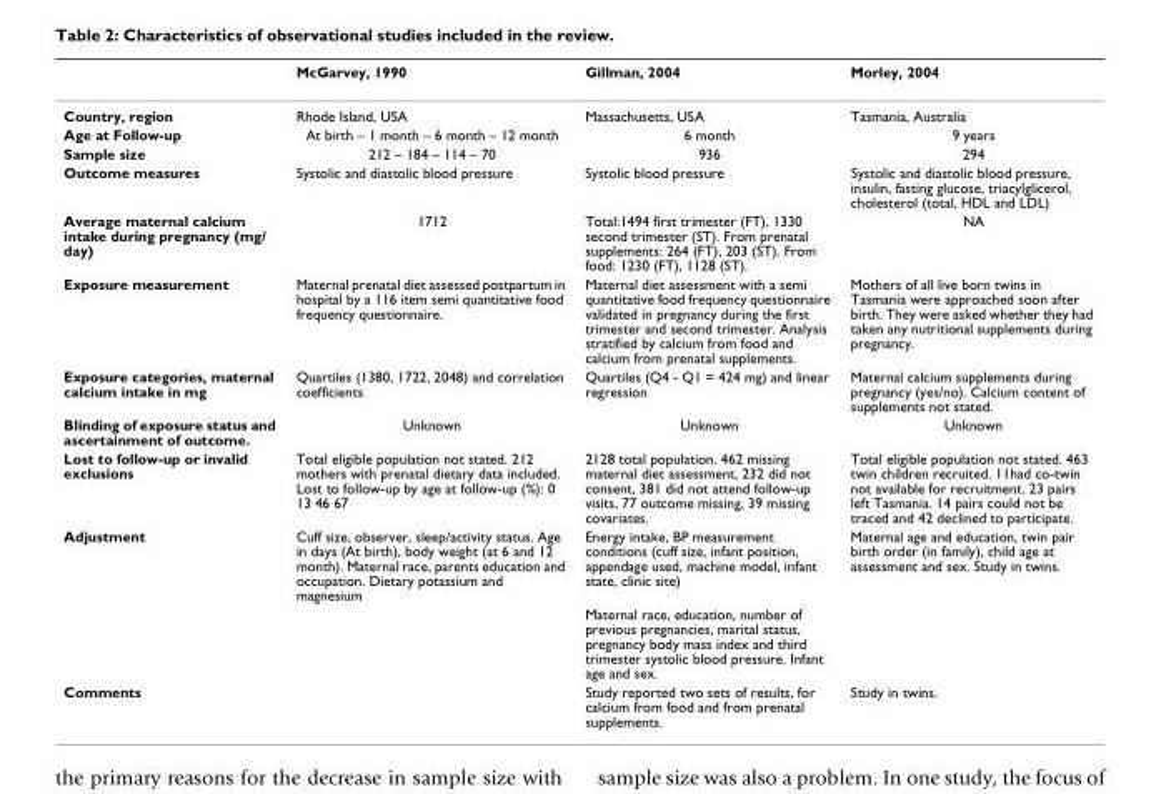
<table><thead><tr><td></td><td>McGarvey, 1990</td><td>Gillman, 2004</td><td>Morley, 2004</td></tr></thead><tbody><tr><td>Country, region</td><td>Rhode Island, USA</td><td>Massachusetts, USA</td><td>Tasmania, Australia</td></tr><tr><td>Age at Follow-up</td><td>At birth – 1 month – 6 month – 12 month</td><td>6 month</td><td>9 years</td></tr><tr><td>Sample size</td><td>212 – 184 – 114 – 70</td><td>936</td><td>294</td></tr><tr><td>Outcome measures</td><td>Systolic and diastolic blood pressure</td><td>Systolic blood pressure</td><td>Systolic and diastolic blood pressure, insulin, fasting glucose, triacylglicerol, cholesterol (total, HDL and LDL)</td></tr><tr><td>Average maternal calcium intake during pregnancy (mg/ day)</td><td>1712</td><td>Total:1494 first trimester (FT), 1330 second trimester (ST). From prenatal supplements: 264 (FT), 203 (ST). From food: 1230 (FT), 1128 (ST).</td><td>NA</td></tr><tr><td>Exposure measurement</td><td>Maternal prenatal diet assessed postpartum in hospital by a 116 item semi quantitative food frequency questionnaire.</td><td>Maternal diet assessment with a semi quantitative food frequency questionnaire validated in pregnancy during the first trimester and second trimester. Analysis stratified by calcium from food and calcium from prenatal supplements.</td><td>Mothers of all live born twins in Tasmania were approached soon after birth. They were asked whether they had taken any nutritional supplements during pregnancy.</td></tr><tr><td>Exposure categories, maternal calcium intake in mg</td><td>Quartiles (1380, 1722, 2048) and correlation coefficients</td><td>Quartiles (Q4 - Q1 = 424 mg) and linear regression</td><td>Maternal calcium supplements during pregnancy (yes/no). Calcium content of supplements not stated.</td></tr><tr><td>Blinding of exposure status and ascertainment of outcome.</td><td>Unknown</td><td>Unknown</td><td>Unknown</td></tr><tr><td>Lost to follow-up or invalid exclusions</td><td>Total eligible population not stated. 212 mothers with prenatal dietary data included. Lost to follow-up by age at follow-up (%): 0 13 46 67</td><td>2128 total population. 462 missing maternal diet assessment, 232 did not consent, 381 did not attend follow-up visits, 77 outcome missing, 39 missing covariates.</td><td>Total eligible population not stated. 463 twin children recruited. 11had co-twin not available for recruitment. 23 pairs left Tasmania. 14 pairs could not be traced and 42 declined to participate.</td></tr><tr><td rowspan="2">Adjustment</td><td>Cuff size, observer, sleep/activity status. Age in days (At birth), body weight (at 6 and 12 month). Maternal race, parents education and occupation. Dietary potassium and magnesium</td><td>Energy intake, BP measurement conditions (cuff size, infant position, appendage used, machine model, infant state, clinic site)</td><td>Maternal age and education, twin pair birth order (in family), child age at assessment and sex. Study in twins.</td></tr><tr><td></td><td>Maternal race, education, number of previous pregnancies, marital status, pregnancy body mass index and third trimester systolic blood pressure. Infant age and sex.</td><td></td></tr><tr><td>Comments</td><td></td><td>Study reported two sets of results, for calcium from food and from prenatal supplements.</td><td>Study in twins.</td></tr></tbody></table>